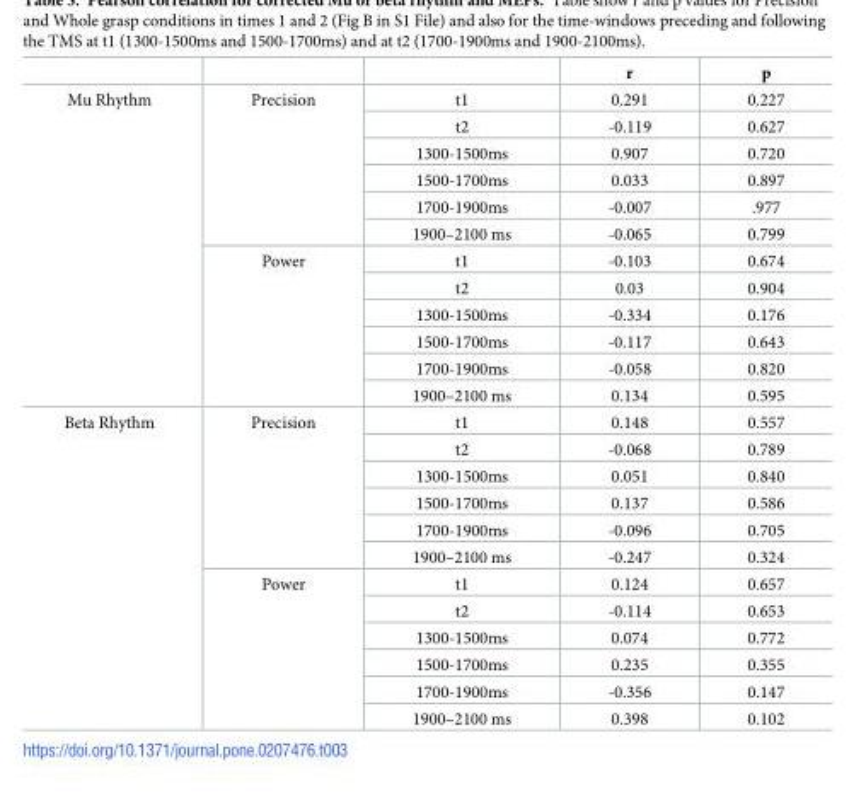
<table><thead><tr><td></td><td></td><td></td><td>r</td><td>p</td></tr></thead><tbody><tr><td rowspan="12">Mu Rhythm</td><td rowspan="6">Precision</td><td>t1</td><td>0.291</td><td>0.227</td></tr><tr><td>t2</td><td>-0.119</td><td>0.627</td></tr><tr><td>1300-1500ms</td><td>0.907</td><td>0.720</td></tr><tr><td>1500-1700ms</td><td>0.033</td><td>0.897</td></tr><tr><td>1700-1900ms</td><td>-0.007</td><td>.977</td></tr><tr><td>1900–2100 ms</td><td>-0.065</td><td>0.799</td></tr><tr><td rowspan="6">Power</td><td>t1</td><td>-0.103</td><td>0.674</td></tr><tr><td>t2</td><td>0.03</td><td>0.904</td></tr><tr><td>1300-1500ms</td><td>-0.334</td><td>0.176</td></tr><tr><td>1500-1700ms</td><td>-0.117</td><td>0.643</td></tr><tr><td>1700-1900ms</td><td>-0.058</td><td>0.820</td></tr><tr><td>1900–2100 ms</td><td>0.134</td><td>0.595</td></tr><tr><td rowspan="12">Beta Rhythm</td><td rowspan="6">Precision</td><td>t1</td><td>0.148</td><td>0.557</td></tr><tr><td>t2</td><td>-0.068</td><td>0.789</td></tr><tr><td>1300-1500ms</td><td>0.051</td><td>0.840</td></tr><tr><td>1500-1700ms</td><td>0.137</td><td>0.586</td></tr><tr><td>1700-1900ms</td><td>-0.096</td><td>0.705</td></tr><tr><td>1900–2100 ms</td><td>-0.247</td><td>0.324</td></tr><tr><td rowspan="6">Power</td><td>t1</td><td>0.124</td><td>0.657</td></tr><tr><td>t2</td><td>-0.114</td><td>0.653</td></tr><tr><td>1300-1500ms</td><td>0.074</td><td>0.772</td></tr><tr><td>1500-1700ms</td><td>0.235</td><td>0.355</td></tr><tr><td>1700-1900ms</td><td>-0.356</td><td>0.147</td></tr><tr><td>1900–2100 ms</td><td>0.398</td><td>0.102</td></tr></tbody></table>